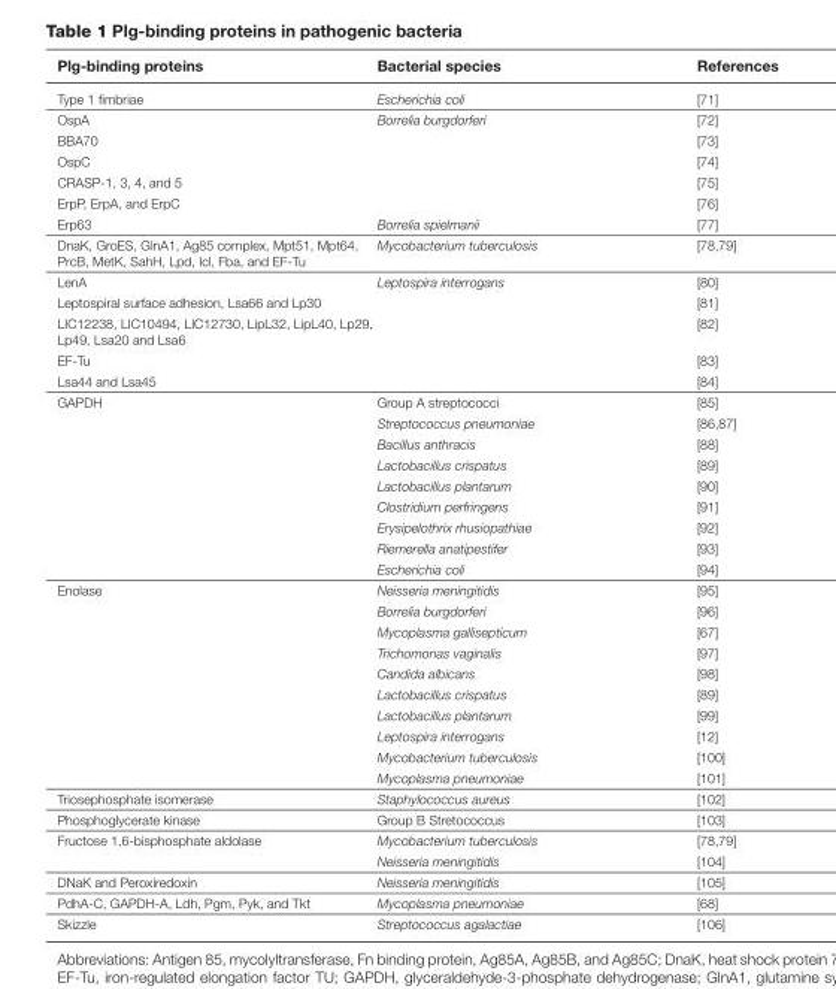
<table><thead><tr><td>Plg-binding proteins</td><td>Bacterial species</td><td>References</td></tr></thead><tbody><tr><td>Type 1 fimbriae</td><td>Escherichia coli</td><td>[71]</td></tr><tr><td>OspA</td><td rowspan="5">Borrelia burgdorferi</td><td>[72]</td></tr><tr><td>BBA70</td><td>[73]</td></tr><tr><td>OspC</td><td>[74]</td></tr><tr><td>CRASP-1, 3, 4, and 5</td><td>[75]</td></tr><tr><td>ErpP, ErpA, and ErpC</td><td>[76]</td></tr><tr><td>Erp63</td><td>Borrelia spielmanii</td><td>[77]</td></tr><tr><td>DnaK, GroES, GlnA1, Ag85 complex, Mpt51, Mpt64, PrcB, MetK, SahH, Lpd, Icl, Fba, and EF-Tu</td><td>Mycobacterium tuberculosis</td><td>[78,79]</td></tr><tr><td>LenA</td><td rowspan="5">Leptospira interrogans</td><td>[80]</td></tr><tr><td>Leptospiral surface adhesion, Lsa66 and Lp30</td><td>[81]</td></tr><tr><td>LIC12238, LIC10494, LIC12730, LipL32, LipL40, Lp29, Lp49, Lsa20 and Lsa6</td><td>[82]</td></tr><tr><td>EF-Tu</td><td>[83]</td></tr><tr><td>Lsa44 and Lsa45</td><td>[84]</td></tr><tr><td rowspan="9">GAPDH</td><td>Group A streptococci</td><td>[85]</td></tr><tr><td>Streptococcus pneumoniae</td><td>[86,87]</td></tr><tr><td>Bacillus anthracis</td><td>[88]</td></tr><tr><td>Lactobacillus crispatus</td><td>[89]</td></tr><tr><td>Lactobacillus plantarum</td><td>[90]</td></tr><tr><td>Clostridium perfringens</td><td>[91]</td></tr><tr><td>Erysipelothrix rhusiopathiae</td><td>[92]</td></tr><tr><td>Riemerella anatipestifer</td><td>[93]</td></tr><tr><td>Escherichia coli</td><td>[94]</td></tr><tr><td rowspan="10">Enolase</td><td>Neisseria meningitidis</td><td>[95]</td></tr><tr><td>Borrelia burgdorferi</td><td>[96]</td></tr><tr><td>Mycoplasma gallisepticum</td><td>[67]</td></tr><tr><td>Trichomonas vaginalis</td><td>[97]</td></tr><tr><td>Candida albicans</td><td>[98]</td></tr><tr><td>Lactobacillus crispatus</td><td>[89]</td></tr><tr><td>Lactobacillus plantarum</td><td>[99]</td></tr><tr><td>Leptospira interrogans</td><td>[12]</td></tr><tr><td>Mycobacterium tuberculosis</td><td>[100]</td></tr><tr><td>Mycoplasma pneumoniae</td><td>[101]</td></tr><tr><td>Triosephosphate isomerase</td><td>Staphylococcus aureus</td><td>[102]</td></tr><tr><td>Phosphoglycerate kinase</td><td>Group B Stretococcus</td><td>[103]</td></tr><tr><td rowspan="2">Fructose 1,6-bisphosphate aldolase</td><td>Mycobacterium tuberculosis</td><td>[78,79]</td></tr><tr><td>Neisseria meningitidis</td><td>[104]</td></tr><tr><td>DNaK and Peroxiredoxin</td><td>Neisseria meningitidis</td><td>[105]</td></tr><tr><td>PdhA-C, GAPDH-A, Ldh, Pgm, Pyk, and Tkt</td><td>Mycoplasma pneumoniae</td><td>[68]</td></tr><tr><td>Skizzle</td><td>Streptococcus agalactiae</td><td>[106]</td></tr></tbody></table>